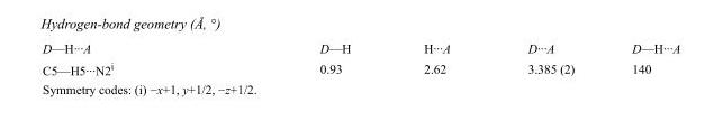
<table><tbody><tr><td>D—H···A</td><td>D—H</td><td>H···A</td><td>D···A</td><td>D—H···A</td></tr><tr><td>C5—H5···N2<sup>i</sup></td><td>0.93</td><td>2.62</td><td>3.385 (2)</td><td>140</td></tr></tbody></table>